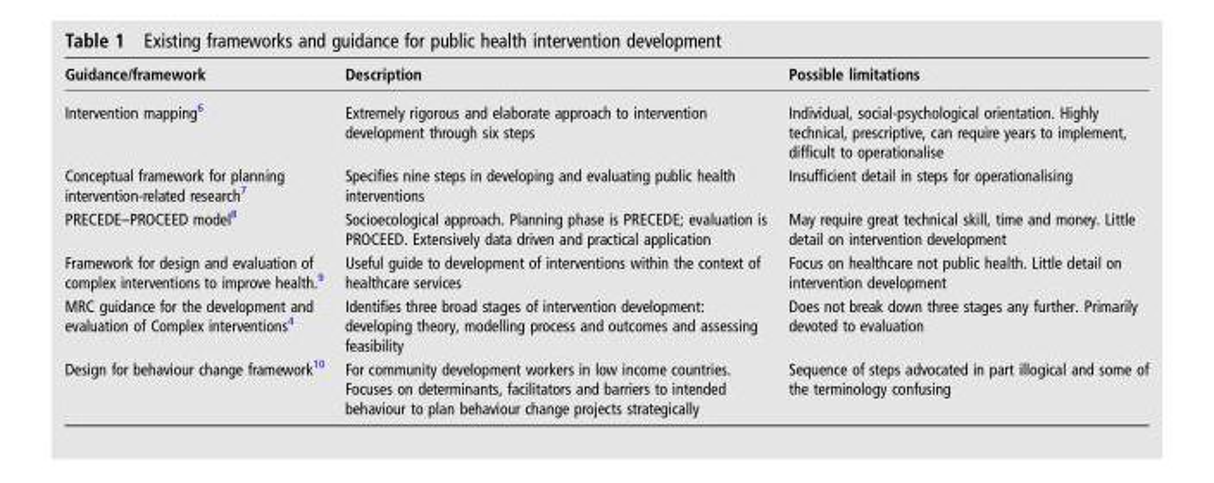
<table><thead><tr><td>Guidance/framework</td><td>Description</td><td>Possible limitations</td></tr></thead><tbody><tr><td>Intervention mapping<sup>6</sup></td><td>Extremely rigorous and elaborate approach to intervention development through six steps</td><td>Individual, social-psychological orientation. Highly technical, prescriptive, can require years to implement, difficult to operationalise</td></tr><tr><td>Conceptual framework for planning intervention-related research<sup>7</sup></td><td>Specifies nine steps in developing and evaluating public health interventions</td><td>Insufficient detail in steps for operationalising</td></tr><tr><td>PRECEDE–PROCEED model<sup>8</sup></td><td>Socioecological approach. Planning phase is PRECEDE; evaluation is PROCEED. Extensively data driven and practical application</td><td>May require great technical skill, time and money. Little detail on intervention development</td></tr><tr><td>Framework for design and evaluation of complex interventions to improve health.<sup>9</sup></td><td>Useful guide to development of interventions within the context of healthcare services</td><td>Focus on healthcare not public health. Little detail on intervention development</td></tr><tr><td>MRC guidance for the development and evaluation of Complex interventions<sup>4</sup></td><td>Identifies three broad stages of intervention development: developing theory, modelling process and outcomes and assessing feasibility</td><td>Does not break down three stages any further. Primarily devoted to evaluation</td></tr><tr><td>Design for behaviour change framework<sup>10</sup></td><td>For community development workers in low income countries. Focuses on determinants, facilitators and barriers to intended behaviour to plan behaviour change projects strategically</td><td>Sequence of steps advocated in part illogical and some of the terminology confusing</td></tr></tbody></table>